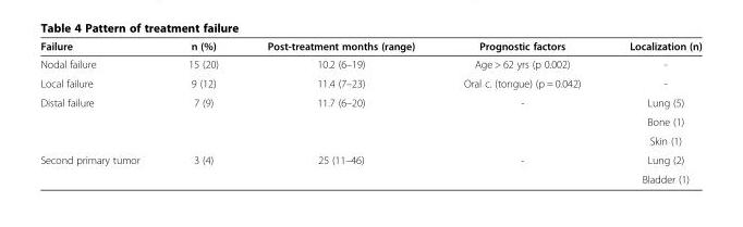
<table><thead><tr><td>Failure</td><td>n (%)</td><td>Post-treatment months (range)</td><td>Prognostic factors</td><td>Localization (n)</td></tr></thead><tbody><tr><td>Nodal failure</td><td>15 (20)</td><td>10.2 (6–19)</td><td>Age &gt; 62 yrs (p 0.002)</td><td>-</td></tr><tr><td>Local failure</td><td>9 (12)</td><td>11.4 (7–23)</td><td>Oral c. (tongue) (p = 0.042)</td><td>-</td></tr><tr><td rowspan="3">Distal failure</td><td rowspan="3">7 (9)</td><td rowspan="3">11.7 (6–20)</td><td rowspan="3">-</td><td>Lung (5)</td></tr><tr><td>Bone (1)</td></tr><tr><td>Skin (1)</td></tr><tr><td>Second primary tumor</td><td>3 (4)</td><td>25 (11–46)</td><td>-</td><td>Lung (2)</td></tr><tr><td colspan="4"></td><td>Bladder (1)</td></tr></tbody></table>